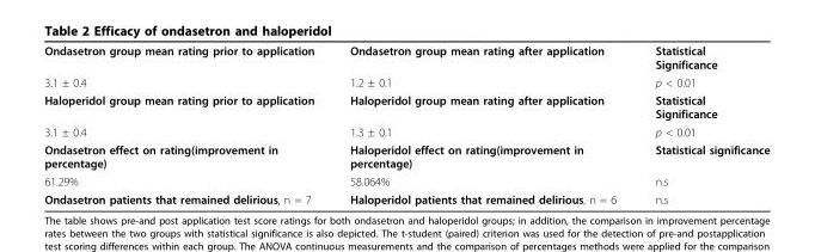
<table><tbody><tr><td>Ondasetron group mean rating prior to application</td><td>Ondasetron group mean rating after application</td><td>Statistical Significance</td></tr><tr><td>3.1 ± 0.4</td><td>1.2 ± 0.1</td><td>p &lt; 0.01</td></tr><tr><td>Haloperidol group mean rating prior to application</td><td>Haloperidol group mean rating after application</td><td>Statistical Significance</td></tr><tr><td>3.1 ± 0.4</td><td>1.3 ± 0.1</td><td>p &lt; 0.01</td></tr><tr><td>Ondasetron effect on rating(improvement in percentage)</td><td>Haloperidol effect on rating(improvement in percentage)</td><td>Statistical significance</td></tr><tr><td>61.29%</td><td>58.064%</td><td>n.s</td></tr><tr><td>Ondasetron patients that remained delirious, n = 7</td><td>Haloperidol patients that remained delirious, n = 6</td><td>n.s</td></tr></tbody></table>